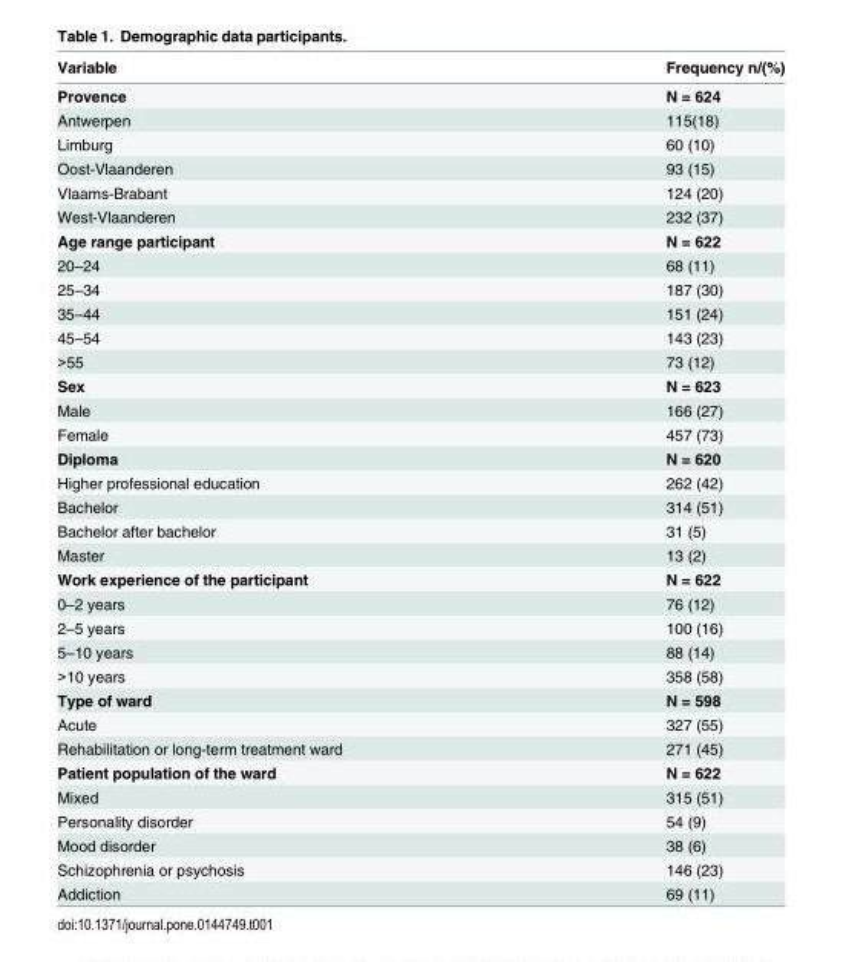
<table><thead><tr><td>Variable</td><td>Frequency n/(%)</td></tr></thead><tbody><tr><td>Provence</td><td>N = 624</td></tr><tr><td>Antwerpen</td><td>115(18)</td></tr><tr><td>Limburg</td><td>60 (10)</td></tr><tr><td>Oost-Vlaanderen</td><td>93 (15)</td></tr><tr><td>Vlaams-Brabant</td><td>124 (20)</td></tr><tr><td>West-Vlaanderen</td><td>232 (37)</td></tr><tr><td>Age range participant</td><td>N = 622</td></tr><tr><td>20–24</td><td>68 (11)</td></tr><tr><td>25–34</td><td>187 (30)</td></tr><tr><td>35–44</td><td>151 (24)</td></tr><tr><td>45–54</td><td>143 (23)</td></tr><tr><td>&gt;55</td><td>73 (12)</td></tr><tr><td>Sex</td><td>N = 623</td></tr><tr><td>Male</td><td>166 (27)</td></tr><tr><td>Female</td><td>457 (73)</td></tr><tr><td>Diploma</td><td>N = 620</td></tr><tr><td>Higher professional education</td><td>262 (42)</td></tr><tr><td>Bachelor</td><td>314 (51)</td></tr><tr><td>Bachelor after bachelor</td><td>31 (5)</td></tr><tr><td>Master</td><td>13 (2)</td></tr><tr><td>Work experience of the participant</td><td>N = 622</td></tr><tr><td>0–2 years</td><td>76 (12)</td></tr><tr><td>2–5 years</td><td>100 (16)</td></tr><tr><td>5–10 years</td><td>88 (14)</td></tr><tr><td>&gt;10 years</td><td>358 (58)</td></tr><tr><td>Type of ward</td><td>N = 598</td></tr><tr><td>Acute</td><td>327 (55)</td></tr><tr><td>Rehabilitation or long-term treatment ward</td><td>271 (45)</td></tr><tr><td>Patient population of the ward</td><td>N = 622</td></tr><tr><td>Mixed</td><td>315 (51)</td></tr><tr><td>Personality disorder</td><td>54 (9)</td></tr><tr><td>Mood disorder</td><td>38 (6)</td></tr><tr><td>Schizophrenia or psychosis</td><td>146 (23)</td></tr><tr><td>Addiction</td><td>69 (11)</td></tr></tbody></table>